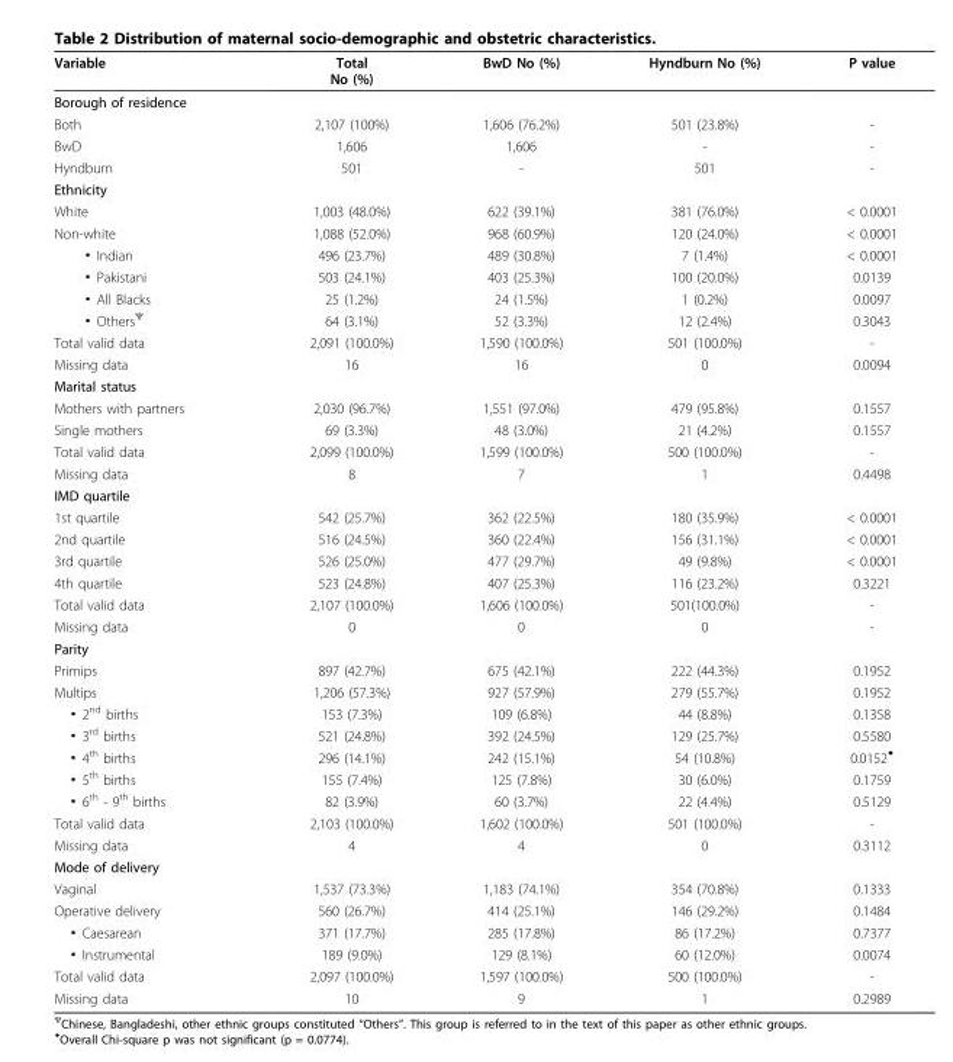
<table><thead><tr><td>Variable</td><td>Total No (%)</td><td>BwD No (%)</td><td>Hyndburn No (%)</td><td>P value</td></tr></thead><tbody><tr><td colspan="5">Borough of residence</td></tr><tr><td>Both</td><td>2,107 (100%)</td><td>1,606 (76.2%)</td><td>501 (23.8%)</td><td>-</td></tr><tr><td>BwD</td><td>1,606</td><td>1,606</td><td>-</td><td>-</td></tr><tr><td>Hyndburn</td><td>501</td><td>-</td><td>501</td><td>-</td></tr><tr><td colspan="5">Ethnicity</td></tr><tr><td>White</td><td>1,003 (48.0%)</td><td>622 (39.1%)</td><td>381 (76.0%)</td><td>&lt; 0.0001</td></tr><tr><td>Non-white</td><td>1,088 (52.0%)</td><td>968 (60.9%)</td><td>120 (24.0%)</td><td>&lt; 0.0001</td></tr><tr><td>▪ Indian</td><td>496 (23.7%)</td><td>489 (30.8%)</td><td>7 (1.4%)</td><td>&lt; 0.0001</td></tr><tr><td>▪ Pakistani</td><td>503 (24.1%)</td><td>403 (25.3%)</td><td>100 (20.0%)</td><td>0.0139</td></tr><tr><td>▪ All Blacks</td><td>25 (1.2%)</td><td>24 (1.5%)</td><td>1 (0.2%)</td><td>0.0097</td></tr><tr><td>▪ Others<sup>Ψ</sup></td><td>64 (3.1%)</td><td>52 (3.3%)</td><td>12 (2.4%)</td><td>0.3043</td></tr><tr><td>Total valid data</td><td>2,091 (100.0%)</td><td>1,590 (100.0%)</td><td>501 (100.0%)</td><td>-</td></tr><tr><td>Missing data</td><td>16</td><td>16</td><td>0</td><td>0.0094</td></tr><tr><td colspan="5">Marital status</td></tr><tr><td>Mothers with partners</td><td>2,030 (96.7%)</td><td>1,551 (97.0%)</td><td>479 (95.8%)</td><td>0.1557</td></tr><tr><td>Single mothers</td><td>69 (3.3%)</td><td>48 (3.0%)</td><td>21 (4.2%)</td><td>0.1557</td></tr><tr><td>Total valid data</td><td>2,099 (100.0%)</td><td>1,599 (100.0%)</td><td>500 (100.0%)</td><td>-</td></tr><tr><td>Missing data</td><td>8</td><td>7</td><td>1</td><td>0.4498</td></tr><tr><td colspan="5">IMD quartile</td></tr><tr><td>1st quartile</td><td>542 (25.7%)</td><td>362 (22.5%)</td><td>180 (35.9%)</td><td>&lt; 0.0001</td></tr><tr><td>2nd quartile</td><td>516 (24.5%)</td><td>360 (22.4%)</td><td>156 (31.1%)</td><td>&lt; 0.0001</td></tr><tr><td>3rd quartile</td><td>526 (25.0%)</td><td>477 (29.7%)</td><td>49 (9.8%)</td><td>&lt; 0.0001</td></tr><tr><td>4th quartile</td><td>523 (24.8%)</td><td>407 (25.3%)</td><td>116 (23.2%)</td><td>0.3221</td></tr><tr><td>Total valid data</td><td>2,107 (100.0%)</td><td>1,606 (100.0%)</td><td>501(100.0%)</td><td>-</td></tr><tr><td>Missing data</td><td>0</td><td>0</td><td>0</td><td>-</td></tr><tr><td colspan="5">Parity</td></tr><tr><td>Primips</td><td>897 (42.7%)</td><td>675 (42.1%)</td><td>222 (44.3%)</td><td>0.1952</td></tr><tr><td>Multips</td><td>1,206 (57.3%)</td><td>927 (57.9%)</td><td>279 (55.7%)</td><td>0.1952</td></tr><tr><td>▪ 2<sup>nd</sup> births</td><td>153 (7.3%)</td><td>109 (6.8%)</td><td>44 (8.8%)</td><td>0.1358</td></tr><tr><td>▪ 3<sup>rd</sup> births</td><td>521 (24.8%)</td><td>392 (24.5%)</td><td>129 (25.7%)</td><td>0.5580</td></tr><tr><td>▪ 4<sup>th</sup> births</td><td>296 (14.1%)</td><td>242 (15.1%)</td><td>54 (10.8%)</td><td>0.0152<sup>◆</sup></td></tr><tr><td>▪ 5<sup>th</sup> births</td><td>155 (7.4%)</td><td>125 (7.8%)</td><td>30 (6.0%)</td><td>0.1759</td></tr><tr><td>▪ 6<sup>th</sup> - 9<sup>th</sup> births</td><td>82 (3.9%)</td><td>60 (3.7%)</td><td>22 (4.4%)</td><td>0.5129</td></tr><tr><td>Total valid data</td><td>2,103 (100.0%)</td><td>1,602 (100.0%)</td><td>501 (100.0%)</td><td>-</td></tr><tr><td>Missing data</td><td>4</td><td>4</td><td>0</td><td>0.3112</td></tr><tr><td colspan="5">Mode of delivery</td></tr><tr><td>Vaginal</td><td>1,537 (73.3%)</td><td>1,183 (74.1%)</td><td>354 (70.8%)</td><td>0.1333</td></tr><tr><td>Operative delivery</td><td>560 (26.7%)</td><td>414 (25.1%)</td><td>146 (29.2%)</td><td>0.1484</td></tr><tr><td>▪ Caesarean</td><td>371 (17.7%)</td><td>285 (17.8%)</td><td>86 (17.2%)</td><td>0.7377</td></tr><tr><td>▪ Instrumental</td><td>189 (9.0%)</td><td>129 (8.1%)</td><td>60 (12.0%)</td><td>0.0074</td></tr><tr><td>Total valid data</td><td>2,097 (100.0%)</td><td>1,597 (100.0%)</td><td>500 (100.0%)</td><td>-</td></tr><tr><td>Missing data</td><td>10</td><td>9</td><td>1</td><td>0.2989</td></tr></tbody></table>